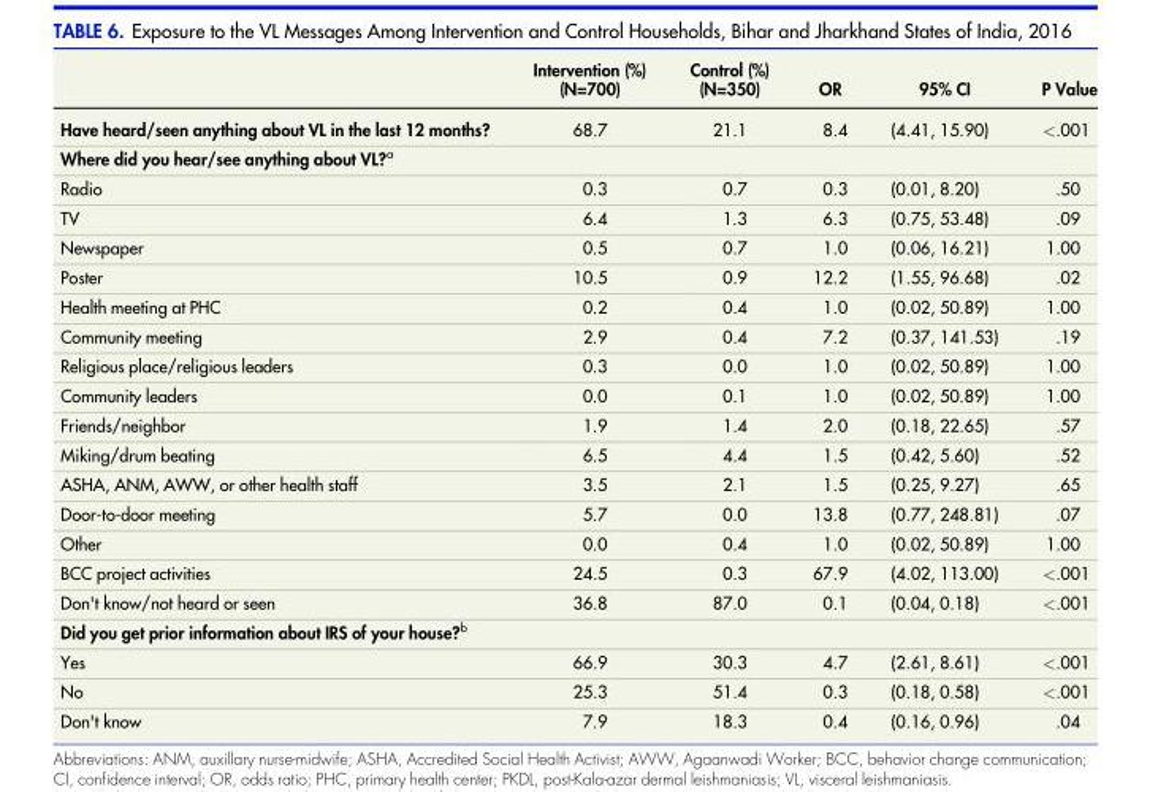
<table><thead><tr><td></td><td>Intervention (%) (N=700)</td><td>Control (%) (N=350)</td><td>OR</td><td>95% CI</td><td>P Value</td></tr></thead><tbody><tr><td>Have heard/seen anything about VL in the last 12 months?</td><td>68.7</td><td>21.1</td><td>8.4</td><td>(4.41, 15.90)</td><td>&lt;.001</td></tr><tr><td colspan="6">Where did you hear/see anything about VL?<sup>a</sup></td></tr><tr><td>Radio</td><td>0.3</td><td>0.7</td><td>0.3</td><td>(0.01, 8.20)</td><td>.50</td></tr><tr><td>TV</td><td>6.4</td><td>1.3</td><td>6.3</td><td>(0.75, 53.48)</td><td>.09</td></tr><tr><td>Newspaper</td><td>0.5</td><td>0.7</td><td>1.0</td><td>(0.06, 16.21)</td><td>1.00</td></tr><tr><td>Poster</td><td>10.5</td><td>0.9</td><td>12.2</td><td>(1.55, 96.68)</td><td>.02</td></tr><tr><td>Health meeting at PHC</td><td>0.2</td><td>0.4</td><td>1.0</td><td>(0.02, 50.89)</td><td>1.00</td></tr><tr><td>Community meeting</td><td>2.9</td><td>0.4</td><td>7.2</td><td>(0.37, 141.53)</td><td>.19</td></tr><tr><td>Religious place/religious leaders</td><td>0.3</td><td>0.0</td><td>1.0</td><td>(0.02, 50.89)</td><td>1.00</td></tr><tr><td>Community leaders</td><td>0.0</td><td>0.1</td><td>1.0</td><td>(0.02, 50.89)</td><td>1.00</td></tr><tr><td>Friends/neighbor</td><td>1.9</td><td>1.4</td><td>2.0</td><td>(0.18, 22.65)</td><td>.57</td></tr><tr><td>Miking/drum beating</td><td>6.5</td><td>4.4</td><td>1.5</td><td>(0.42, 5.60)</td><td>.52</td></tr><tr><td>ASHA, ANM, AWW, or other health staff</td><td>3.5</td><td>2.1</td><td>1.5</td><td>(0.25, 9.27)</td><td>.65</td></tr><tr><td>Door-to-door meeting</td><td>5.7</td><td>0.0</td><td>13.8</td><td>(0.77, 248.81)</td><td>.07</td></tr><tr><td>Other</td><td>0.0</td><td>0.4</td><td>1.0</td><td>(0.02, 50.89)</td><td>1.00</td></tr><tr><td>BCC project activities</td><td>24.5</td><td>0.3</td><td>67.9</td><td>(4.02, 113.00)</td><td>&lt;.001</td></tr><tr><td>Don&#x27;t know/not heard or seen</td><td>36.8</td><td>87.0</td><td>0.1</td><td>(0.04, 0.18)</td><td>&lt;.001</td></tr><tr><td colspan="6">Did you get prior information about IRS of your house?<sup>b</sup></td></tr><tr><td>Yes</td><td>66.9</td><td>30.3</td><td>4.7</td><td>(2.61, 8.61)</td><td>&lt;.001</td></tr><tr><td>No</td><td>25.3</td><td>51.4</td><td>0.3</td><td>(0.18, 0.58)</td><td>&lt;.001</td></tr><tr><td>Don&#x27;t know</td><td>7.9</td><td>18.3</td><td>0.4</td><td>(0.16, 0.96)</td><td>.04</td></tr></tbody></table>